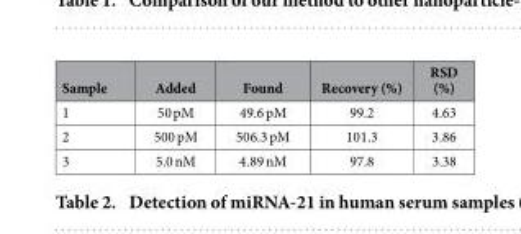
<table><thead><tr><td>Sample</td><td>Added</td><td>Found</td><td>Recovery (%)</td><td>RSD (%)</td></tr></thead><tbody><tr><td>1</td><td>50 pM</td><td>49.6 pM</td><td>99.2</td><td>4.63</td></tr><tr><td>2</td><td>500 pM</td><td>506.3 pM</td><td>101.3</td><td>3.86</td></tr><tr><td>3</td><td>5.0 nM</td><td>4.89 nM</td><td>97.8</td><td>3.38</td></tr></tbody></table>